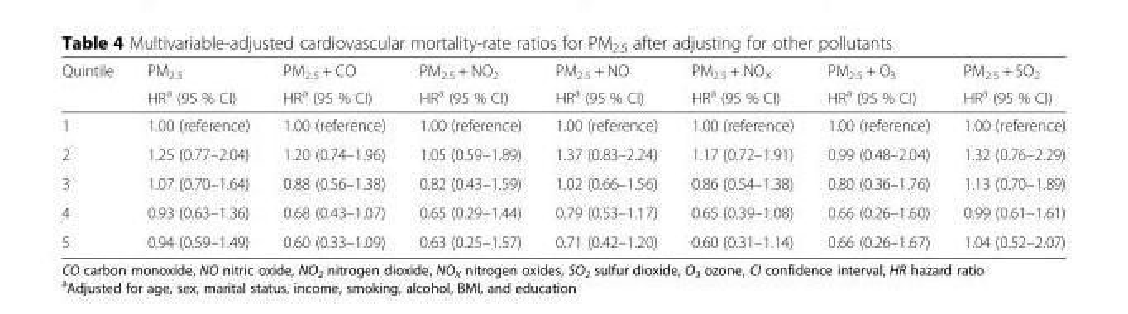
<table><thead><tr><td rowspan="2">Quintile</td><td rowspan="2">PM<sub>2.5</sub> HR<sup>a</sup> (95 % CI)</td><td rowspan="2">PM<sub>2.5</sub> + CO HR<sup>a</sup> (95 % CI)</td><td rowspan="2">PM<sub>2.5</sub> + NO<sub>2</sub> HR<sup>a</sup> (95 % CI)</td><td rowspan="2">PM<sub>2.5</sub> + NO HR<sup>a</sup> (95 % CI)</td><td rowspan="2">PM<sub>2.5</sub> + NO<sub>X</sub> HR<sup>a</sup> (95 % CI)</td><td rowspan="2">PM<sub>2.5</sub> + O<sub>3</sub> HR<sup>a</sup> (95 % CI)</td><td rowspan="2">PM<sub>2.5</sub> + SO<sub>2</sub> HR<sup>a</sup> (95 % CI)</td></tr><tr></tr></thead><tbody><tr><td>1</td><td>1.00 (reference)</td><td>1.00 (reference)</td><td>1.00 (reference)</td><td>1.00 (reference)</td><td>1.00 (reference)</td><td>1.00 (reference)</td><td>1.00 (reference)</td></tr><tr><td>2</td><td>1.25 (0.77–2.04)</td><td>1.20 (0.74–1.96)</td><td>1.05 (0.59–1.89)</td><td>1.37 (0.83–2.24)</td><td>1.17 (0.72–1.91)</td><td>0.99 (0.48–2.04)</td><td>1.32 (0.76–2.29)</td></tr><tr><td>3</td><td>1.07 (0.70–1.64)</td><td>0.88 (0.56–1.38)</td><td>0.82 (0.43–1.59)</td><td>1.02 (0.66–1.56)</td><td>0.86 (0.54–1.38)</td><td>0.80 (0.36–1.76)</td><td>1.13 (0.70–1.89)</td></tr><tr><td>4</td><td>0.93 (0.63–1.36)</td><td>0.68 (0.43–1.07)</td><td>0.65 (0.29–1.44)</td><td>0.79 (0.53–1.17)</td><td>0.65 (0.39–1.08)</td><td>0.66 (0.26–1.60)</td><td>0.99 (0.61–1.61)</td></tr><tr><td>5</td><td>0.94 (0.59–1.49)</td><td>0.60 (0.33–1.09)</td><td>0.63 (0.25–1.57)</td><td>0.71 (0.42–1.20)</td><td>0.60 (0.31–1.14)</td><td>0.66 (0.26–1.67)</td><td>1.04 (0.52–2.07)</td></tr></tbody></table>